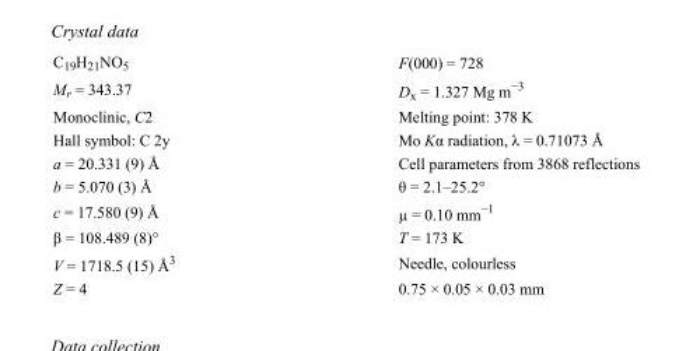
<table><tbody><tr><td>C<sub>19</sub>H<sub>21</sub>NO<sub>5</sub></td><td>F(000) = 728</td></tr><tr><td>M<sub>r</sub> = 343.37</td><td>D<sub>x</sub> = 1.327 Mg m<sup>−3</sup></td></tr><tr><td>Monoclinic, C2</td><td>Melting point: 378 K</td></tr><tr><td>Hall symbol: C 2y</td><td>Mo Kα radiation, λ = 0.71073 Å</td></tr><tr><td>a = 20.331 (9) Å</td><td>Cell parameters from 3868 reflections</td></tr><tr><td>b = 5.070 (3) Å</td><td>θ = 2.1–25.2°</td></tr><tr><td>c = 17.580 (9) Å</td><td>µ = 0.10 mm<sup>−1</sup></td></tr><tr><td>β = 108.489 (8)°</td><td>T = 173 K</td></tr><tr><td>V = 1718.5 (15) Å<sup>3</sup></td><td>Needle, colourless</td></tr><tr><td>Z = 4</td><td>0.75 × 0.05 × 0.03 mm</td></tr></tbody></table>